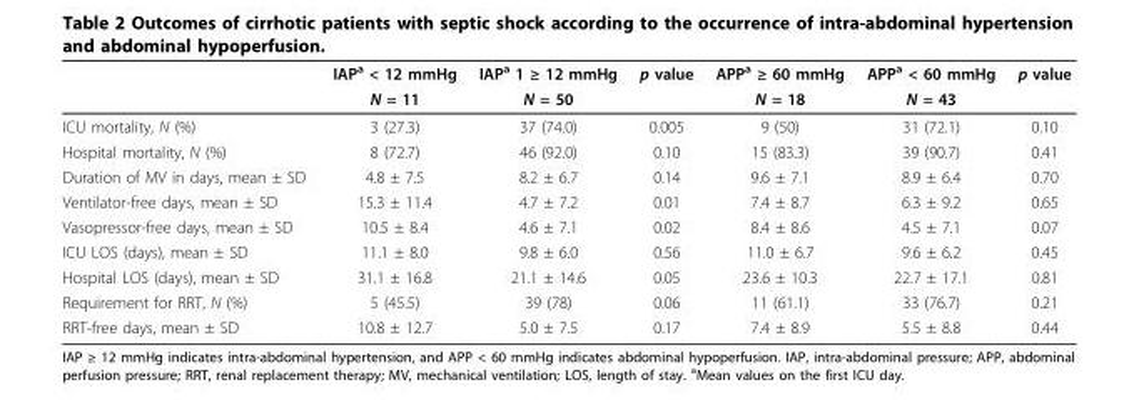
<table><thead><tr><td rowspan="2"></td><td rowspan="2">IAP<sup>a</sup> &lt; 12 mmHg N = 11</td><td rowspan="2">IAP<sup>a</sup> 1 ≥ 12 mmHg N = 50</td><td rowspan="2">p value</td><td rowspan="2">APP<sup>a</sup> ≥ 60 mmHg N = 18</td><td rowspan="2">APP<sup>a</sup> &lt; 60 mmHg N = 43</td><td rowspan="2">p value</td></tr><tr></tr></thead><tbody><tr><td>ICU mortality, N (%)</td><td>3 (27.3)</td><td>37 (74.0)</td><td>0.005</td><td>9 (50)</td><td>31 (72.1)</td><td>0.10</td></tr><tr><td>Hospital mortality, N (%)</td><td>8 (72.7)</td><td>46 (92.0)</td><td>0.10</td><td>15 (83.3)</td><td>39 (90.7)</td><td>0.41</td></tr><tr><td>Duration of MV in days, mean ± SD</td><td>4.8 ± 7.5</td><td>8.2 ± 6.7</td><td>0.14</td><td>9.6 ± 7.1</td><td>8.9 ± 6.4</td><td>0.70</td></tr><tr><td>Ventilator-free days, mean ± SD</td><td>15.3 ± 11.4</td><td>4.7 ± 7.2</td><td>0.01</td><td>7.4 ± 8.7</td><td>6.3 ± 9.2</td><td>0.65</td></tr><tr><td>Vasopressor-free days, mean ± SD</td><td>10.5 ± 8.4</td><td>4.6 ± 7.1</td><td>0.02</td><td>8.4 ± 8.6</td><td>4.5 ± 7.1</td><td>0.07</td></tr><tr><td>ICU LOS (days), mean ± SD</td><td>11.1 ± 8.0</td><td>9.8 ± 6.0</td><td>0.56</td><td>11.0 ± 6.7</td><td>9.6 ± 6.2</td><td>0.45</td></tr><tr><td>Hospital LOS (days), mean ± SD</td><td>31.1 ± 16.8</td><td>21.1 ± 14.6</td><td>0.05</td><td>23.6 ± 10.3</td><td>22.7 ± 17.1</td><td>0.81</td></tr><tr><td>Requirement for RRT, N (%)</td><td>5 (45.5)</td><td>39 (78)</td><td>0.06</td><td>11 (61.1)</td><td>33 (76.7)</td><td>0.21</td></tr><tr><td>RRT-free days, mean ± SD</td><td>10.8 ± 12.7</td><td>5.0 ± 7.5</td><td>0.17</td><td>7.4 ± 8.9</td><td>5.5 ± 8.8</td><td>0.44</td></tr></tbody></table>